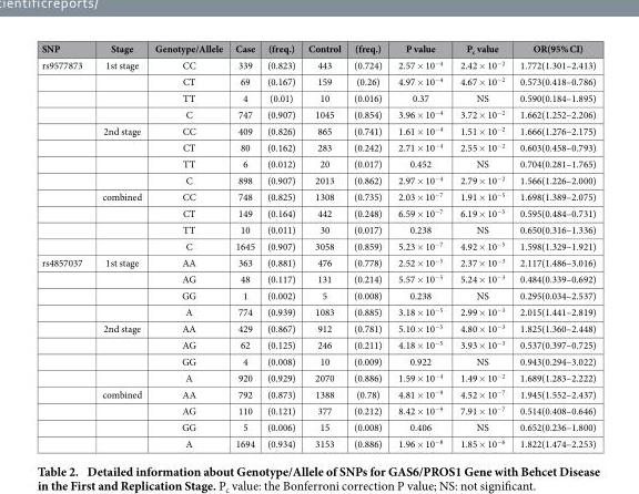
<table><thead><tr><td>SNP</td><td>Stage</td><td>Genotype/Allele</td><td>Case</td><td>(freq.)</td><td>Control</td><td>(freq.)</td><td>P value</td><td>P<sub>c</sub> value</td><td>OR(95% CI)</td></tr></thead><tbody><tr><td rowspan="12">rs9577873</td><td>1st stage</td><td>CC</td><td>339</td><td>(0.823)</td><td>443</td><td>(0.724)</td><td>2.57 × 10<sup>−4</sup></td><td>2.42 × 10<sup>−2</sup></td><td>1.772(1.301–2.413)</td></tr><tr><td></td><td>CT</td><td>69</td><td>(0.167)</td><td>159</td><td>(0.26)</td><td>4.97 × 10<sup>−4</sup></td><td>4.67 × 10<sup>−2</sup></td><td>0.573(0.418–0.786)</td></tr><tr><td></td><td>TT</td><td>4</td><td>(0.01)</td><td>10</td><td>(0.016)</td><td>0.37</td><td>NS</td><td>0.590(0.184–1.895)</td></tr><tr><td></td><td>C</td><td>747</td><td>(0.907)</td><td>1045</td><td>(0.854)</td><td>3.96 × 10<sup>−4</sup></td><td>3.72 × 10<sup>−2</sup></td><td>1.662(1.252–2.206)</td></tr><tr><td>2nd stage</td><td>CC</td><td>409</td><td>(0.826)</td><td>865</td><td>(0.741)</td><td>1.61 × 10<sup>−4</sup></td><td>1.51 × 10<sup>−2</sup></td><td>1.666(1.276–2.175)</td></tr><tr><td></td><td>CT</td><td>80</td><td>(0.162)</td><td>283</td><td>(0.242)</td><td>2.71 × 10<sup>−4</sup></td><td>2.55 × 10<sup>−2</sup></td><td>0.603(0.458–0.793)</td></tr><tr><td></td><td>TT</td><td>6</td><td>(0.012)</td><td>20</td><td>(0.017)</td><td>0.452</td><td>NS</td><td>0.704(0.281–1.765)</td></tr><tr><td></td><td>C</td><td>898</td><td>(0.907)</td><td>2013</td><td>(0.862)</td><td>2.97 × 10<sup>−4</sup></td><td>2.79 × 10<sup>−2</sup></td><td>1.566(1.226–2.000)</td></tr><tr><td>combined</td><td>CC</td><td>748</td><td>(0.825)</td><td>1308</td><td>(0.735)</td><td>2.03 × 10<sup>−7</sup></td><td>1.91 × 10<sup>−5</sup></td><td>1.698(1.389–2.075)</td></tr><tr><td></td><td>CT</td><td>149</td><td>(0.164)</td><td>442</td><td>(0.248)</td><td>6.59 × 10<sup>−7</sup></td><td>6.19 × 10<sup>−5</sup></td><td>0.595(0.484–0.731)</td></tr><tr><td></td><td>TT</td><td>10</td><td>(0.011)</td><td>30</td><td>(0.017)</td><td>0.238</td><td>NS</td><td>0.650(0.316–1.336)</td></tr><tr><td></td><td>C</td><td>1645</td><td>(0.907)</td><td>3058</td><td>(0.859)</td><td>5.23 × 10<sup>−7</sup></td><td>4.92 × 10<sup>−5</sup></td><td>1.598(1.329–1.921)</td></tr><tr><td rowspan="12">rs4857037</td><td>1st stage</td><td>AA</td><td>363</td><td>(0.881)</td><td>476</td><td>(0.778)</td><td>2.52 × 10<sup>−5</sup></td><td>2.37 × 10<sup>−3</sup></td><td>2.117(1.486–3.016)</td></tr><tr><td></td><td>AG</td><td>48</td><td>(0.117)</td><td>131</td><td>(0.214)</td><td>5.57 × 10<sup>−5</sup></td><td>5.24 × 10<sup>−3</sup></td><td>0.484(0.339–0.692)</td></tr><tr><td></td><td>GG</td><td>1</td><td>(0.002)</td><td>5</td><td>(0.008)</td><td>0.238</td><td>NS</td><td>0.295(0.034–2.537)</td></tr><tr><td></td><td>A</td><td>774</td><td>(0.939)</td><td>1083</td><td>(0.885)</td><td>3.18 × 10<sup>−5</sup></td><td>2.99 × 10<sup>−3</sup></td><td>2.015(1.441–2.819)</td></tr><tr><td>2nd stage</td><td>AA</td><td>429</td><td>(0.867)</td><td>912</td><td>(0.781)</td><td>5.10 × 10<sup>−5</sup></td><td>4.80 × 10<sup>−3</sup></td><td>1.825(1.360–2.448)</td></tr><tr><td></td><td>AG</td><td>62</td><td>(0.125)</td><td>246</td><td>(0.211)</td><td>4.18 × 10<sup>−5</sup></td><td>3.93 × 10<sup>−3</sup></td><td>0.537(0.397–0.725)</td></tr><tr><td></td><td>GG</td><td>4</td><td>(0.008)</td><td>10</td><td>(0.009)</td><td>0.922</td><td>NS</td><td>0.943(0.294–3.022)</td></tr><tr><td></td><td>A</td><td>920</td><td>(0.929)</td><td>2070</td><td>(0.886)</td><td>1.59 × 10<sup>−4</sup></td><td>1.49 × 10<sup>−2</sup></td><td>1.689(1.283–2.222)</td></tr><tr><td>combined</td><td>AA</td><td>792</td><td>(0.873)</td><td>1388</td><td>(0.78)</td><td>4.81 × 10<sup>−9</sup></td><td>4.52 × 10<sup>−7</sup></td><td>1.945(1.552–2.437)</td></tr><tr><td></td><td>AG</td><td>110</td><td>(0.121)</td><td>377</td><td>(0.212)</td><td>8.42 × 10<sup>−9</sup></td><td>7.91 × 10<sup>−7</sup></td><td>0.514(0.408–0.646)</td></tr><tr><td></td><td>GG</td><td>5</td><td>(0.006)</td><td>15</td><td>(0.008)</td><td>0.406</td><td>NS</td><td>0.652(0.236–1.800)</td></tr><tr><td></td><td>A</td><td>1694</td><td>(0.934)</td><td>3153</td><td>(0.886)</td><td>1.96 × 10<sup>−8</sup></td><td>1.85 × 10<sup>−6</sup></td><td>1.822(1.474–2.253)</td></tr></tbody></table>